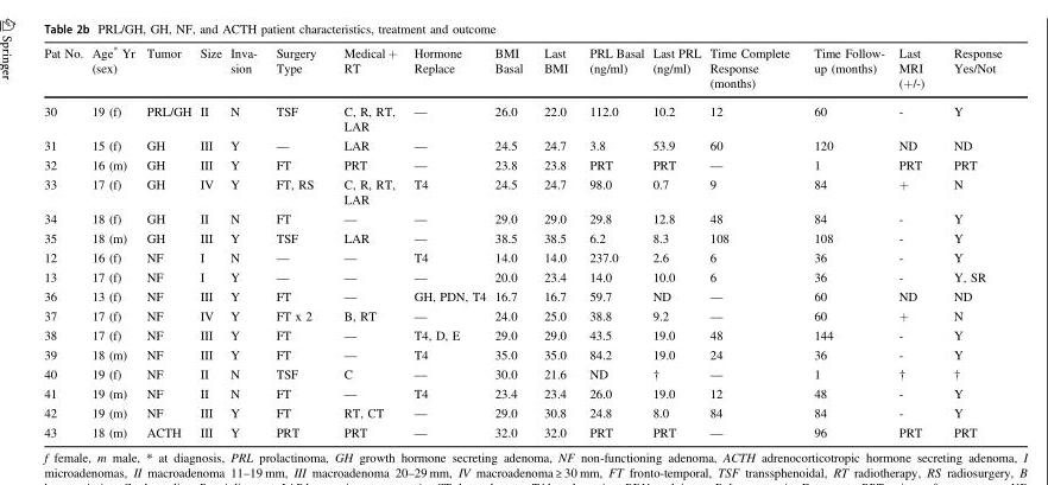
<table><thead><tr><td>Pat No.</td><td>Age* Yr (sex)</td><td>Tumor</td><td>Size</td><td>Inva- sion</td><td>Surgery Type</td><td>Medical + RT</td><td>Hormone Replace</td><td>BMI Basal</td><td>Last BMI</td><td>PRL Basal (ng/ml)</td><td>Last PRL (ng/ml)</td><td>Time Complete Response (months)</td><td>Time Follow- up (months)</td><td>Last MRI (+/-)</td><td>Response Yes/Not</td></tr></thead><tbody><tr><td>30</td><td>19 (f)</td><td>PRL/GH</td><td>II</td><td>N</td><td>TSF</td><td>C, R, RT, LAR</td><td>—</td><td>26.0</td><td>22.0</td><td>112.0</td><td>10.2</td><td>12</td><td>60</td><td>-</td><td>Y</td></tr><tr><td>31</td><td>15 (f)</td><td>GH</td><td>III</td><td>Y</td><td>—</td><td>LAR</td><td>—</td><td>24.5</td><td>24.7</td><td>3.8</td><td>53.9</td><td>60</td><td>120</td><td>ND</td><td>ND</td></tr><tr><td>32</td><td>16 (m)</td><td>GH</td><td>III</td><td>Y</td><td>FT</td><td>PRT</td><td>—</td><td>23.8</td><td>23.8</td><td>PRT</td><td>PRT</td><td>—</td><td>1</td><td>PRT</td><td>PRT</td></tr><tr><td>33</td><td>17 (f)</td><td>GH</td><td>IV</td><td>Y</td><td>FT, RS</td><td>C, R, RT, LAR</td><td>T4</td><td>24.5</td><td>24.7</td><td>98.0</td><td>0.7</td><td>9</td><td>84</td><td>+</td><td>N</td></tr><tr><td>34</td><td>18 (f)</td><td>GH</td><td>II</td><td>N</td><td>FT</td><td>—</td><td>—</td><td>29.0</td><td>29.0</td><td>29.8</td><td>12.8</td><td>48</td><td>84</td><td>-</td><td>Y</td></tr><tr><td>35</td><td>18 (m)</td><td>GH</td><td>III</td><td>Y</td><td>TSF</td><td>LAR</td><td>—</td><td>38.5</td><td>38.5</td><td>6.2</td><td>8.3</td><td>108</td><td>108</td><td>-</td><td>Y</td></tr><tr><td>12</td><td>16 (f)</td><td>NF</td><td>I</td><td>N</td><td>—</td><td>—</td><td>T4</td><td>14.0</td><td>14.0</td><td>237.0</td><td>2.6</td><td>6</td><td>36</td><td>-</td><td>Y</td></tr><tr><td>13</td><td>17 (f)</td><td>NF</td><td>I</td><td>Y</td><td>—</td><td>—</td><td>—</td><td>20.0</td><td>23.4</td><td>14.0</td><td>10.0</td><td>6</td><td>36</td><td>-</td><td>Y, SR</td></tr><tr><td>36</td><td>13 (f)</td><td>NF</td><td>III</td><td>Y</td><td>FT</td><td>—</td><td>GH, PDN, T4</td><td>16.7</td><td>16.7</td><td>59.7</td><td>ND</td><td>—</td><td>60</td><td>ND</td><td>ND</td></tr><tr><td>37</td><td>17 (f)</td><td>NF</td><td>IV</td><td>Y</td><td>FT x 2</td><td>B, RT</td><td>—</td><td>24.0</td><td>25.0</td><td>38.8</td><td>9.2</td><td>—</td><td>60</td><td>+</td><td>N</td></tr><tr><td>38</td><td>17 (f)</td><td>NF</td><td>III</td><td>Y</td><td>FT</td><td>—</td><td>T4, D, E</td><td>29.0</td><td>29.0</td><td>43.5</td><td>19.0</td><td>48</td><td>144</td><td>-</td><td>Y</td></tr><tr><td>39</td><td>18 (m)</td><td>NF</td><td>III</td><td>Y</td><td>FT</td><td>—</td><td>T4</td><td>35.0</td><td>35.0</td><td>84.2</td><td>19.0</td><td>24</td><td>36</td><td>-</td><td>Y</td></tr><tr><td>40</td><td>19 (f)</td><td>NF</td><td>II</td><td>N</td><td>TSF</td><td>C</td><td>—</td><td>30.0</td><td>21.6</td><td>ND</td><td>†</td><td>—</td><td>1</td><td>†</td><td>†</td></tr><tr><td>41</td><td>19 (m)</td><td>NF</td><td>II</td><td>N</td><td>FT</td><td>—</td><td>T4</td><td>23.4</td><td>23.4</td><td>26.0</td><td>19.0</td><td>12</td><td>48</td><td>-</td><td>Y</td></tr><tr><td>42</td><td>19 (m)</td><td>NF</td><td>III</td><td>Y</td><td>FT</td><td>RT, CT</td><td>—</td><td>29.0</td><td>30.8</td><td>24.8</td><td>8.0</td><td>84</td><td>84</td><td>-</td><td>Y</td></tr><tr><td>43</td><td>18 (m)</td><td>ACTH</td><td>III</td><td>Y</td><td>PRT</td><td>PRT</td><td>—</td><td>32.0</td><td>32.0</td><td>PRT</td><td>PRT</td><td>—</td><td>96</td><td>PRT</td><td>PRT</td></tr></tbody></table>